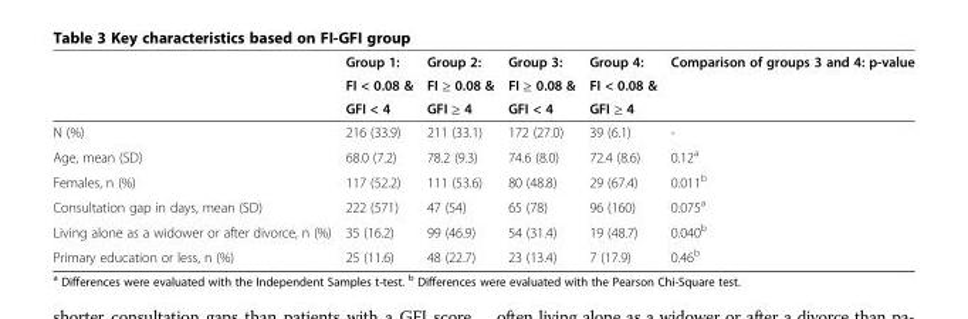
<table><thead><tr><td rowspan="3"></td><td rowspan="3">Group 1: FI &lt; 0.08 &amp; GFI &lt; 4</td><td rowspan="3">Group 2: FI ≥ 0.08 &amp; GFI ≥ 4</td><td rowspan="3">Group 3: FI ≥ 0.08 &amp; GFI &lt; 4</td><td rowspan="3">Group 4: FI &lt; 0.08 &amp; GFI ≥ 4</td><td rowspan="3">Comparison of groups 3 and 4: p-value</td></tr><tr></tr><tr></tr></thead><tbody><tr><td>N (%)</td><td>216 (33.9)</td><td>211 (33.1)</td><td>172 (27.0)</td><td>39 (6.1)</td><td>-</td></tr><tr><td>Age, mean (SD)</td><td>68.0 (7.2)</td><td>78.2 (9.3)</td><td>74.6 (8.0)</td><td>72.4 (8.6)</td><td>0.12<sup>a</sup></td></tr><tr><td>Females, n (%)</td><td>117 (52.2)</td><td>111 (53.6)</td><td>80 (48.8)</td><td>29 (67.4)</td><td>0.011<sup>b</sup></td></tr><tr><td>Consultation gap in days, mean (SD)</td><td>222 (571)</td><td>47 (54)</td><td>65 (78)</td><td>96 (160)</td><td>0.075<sup>a</sup></td></tr><tr><td>Living alone as a widower or after divorce, n (%)</td><td>35 (16.2)</td><td>99 (46.9)</td><td>54 (31.4)</td><td>19 (48.7)</td><td>0.040<sup>b</sup></td></tr><tr><td>Primary education or less, n (%)</td><td>25 (11.6)</td><td>48 (22.7)</td><td>23 (13.4)</td><td>7 (17.9)</td><td>0.46<sup>b</sup></td></tr></tbody></table>